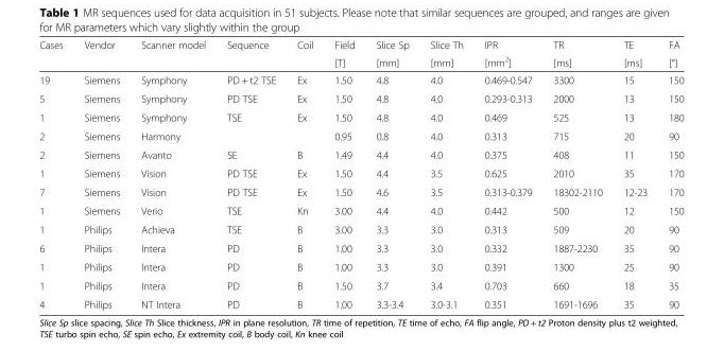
<table><thead><tr><td rowspan="2">Cases</td><td rowspan="2">Vendor</td><td rowspan="2">Scanner model</td><td rowspan="2">Sequence</td><td rowspan="2">Coil</td><td rowspan="2">Field [T]</td><td rowspan="2">Slice Sp [mm]</td><td rowspan="2">Slice Th [mm]</td><td rowspan="2">IPR [mm<sup>2</sup>]</td><td rowspan="2">TR [ms]</td><td rowspan="2">TE [ms]</td><td rowspan="2">FA [°]</td></tr><tr></tr></thead><tbody><tr><td>19</td><td>Siemens</td><td>Symphony</td><td>PD + t2 TSE</td><td>Ex</td><td>1.50</td><td>4.8</td><td>4.0</td><td>0.469-0.547</td><td>3300</td><td>15</td><td>150</td></tr><tr><td>5</td><td>Siemens</td><td>Symphony</td><td>PD TSE</td><td>Ex</td><td>1.50</td><td>4.8</td><td>4.0</td><td>0.293-0.313</td><td>2000</td><td>13</td><td>150</td></tr><tr><td>1</td><td>Siemens</td><td>Symphony</td><td>TSE</td><td>Ex</td><td>1.50</td><td>4.8</td><td>4.0</td><td>0.469</td><td>525</td><td>13</td><td>180</td></tr><tr><td>2</td><td>Siemens</td><td>Harmony</td><td></td><td></td><td>0.95</td><td>0.8</td><td>4.0</td><td>0.313</td><td>715</td><td>20</td><td>90</td></tr><tr><td>2</td><td>Siemens</td><td>Avanto</td><td>SE</td><td>B</td><td>1.49</td><td>4.4</td><td>4.0</td><td>0.375</td><td>408</td><td>11</td><td>150</td></tr><tr><td>1</td><td>Siemens</td><td>Vision</td><td>PD TSE</td><td>Ex</td><td>1.50</td><td>4.4</td><td>3.5</td><td>0.625</td><td>2010</td><td>35</td><td>170</td></tr><tr><td>7</td><td>Siemens</td><td>Vision</td><td>PD TSE</td><td>Ex</td><td>1.50</td><td>4.6</td><td>3.5</td><td>0.313-0.379</td><td>18302-2110</td><td>12-23</td><td>170</td></tr><tr><td>1</td><td>Siemens</td><td>Verio</td><td>TSE</td><td>Kn</td><td>3.00</td><td>4.4</td><td>4.0</td><td>0.442</td><td>500</td><td>12</td><td>150</td></tr><tr><td>1</td><td>Philips</td><td>Achieva</td><td>TSE</td><td>B</td><td>3.00</td><td>3.3</td><td>3.0</td><td>0.313</td><td>509</td><td>20</td><td>90</td></tr><tr><td>6</td><td>Philips</td><td>Intera</td><td>PD</td><td>B</td><td>1.00</td><td>3.3</td><td>3.0</td><td>0.332</td><td>1887-2230</td><td>35</td><td>90</td></tr><tr><td>1</td><td>Philips</td><td>Intera</td><td>PD</td><td>B</td><td>1.00</td><td>3.3</td><td>3.0</td><td>0.391</td><td>1300</td><td>25</td><td>90</td></tr><tr><td>1</td><td>Philips</td><td>Intera</td><td>PD</td><td>B</td><td>1.50</td><td>3.7</td><td>3.4</td><td>0.703</td><td>660</td><td>18</td><td>35</td></tr><tr><td>4</td><td>Philips</td><td>NT Intera</td><td>PD</td><td>B</td><td>1.00</td><td>3.3-3.4</td><td>3.0-3.1</td><td>0.351</td><td>1691-1696</td><td>35</td><td>90</td></tr></tbody></table>